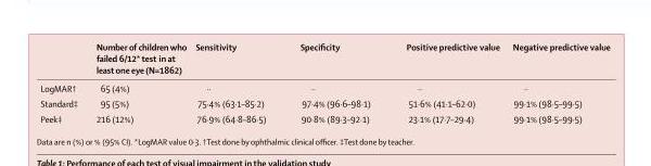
<table><thead><tr><td></td><td>Number of children who failed 6/12* test in at least one eye (N=1862)</td><td>Sensitivity</td><td>Specificity</td><td>Positive predictive value</td><td>Negative predictive value</td></tr></thead><tbody><tr><td>LogMAR†</td><td>65 (4%)</td><td>··</td><td>··</td><td>··</td><td>··</td></tr><tr><td>Standard‡</td><td>95 (5%)</td><td>75·4% (63·1–85·2)</td><td>97·4% (96·6–98·1)</td><td>51·6% (41·1–62·0)</td><td>99·1% (98·5–99·5)</td></tr><tr><td>Peek‡</td><td>216 (12%)</td><td>76·9% (64·8–86·5)</td><td>90·8% (89·3–92·1)</td><td>23·1% (17·7–29·4)</td><td>99·1% (98·5–99·5)</td></tr></tbody></table>